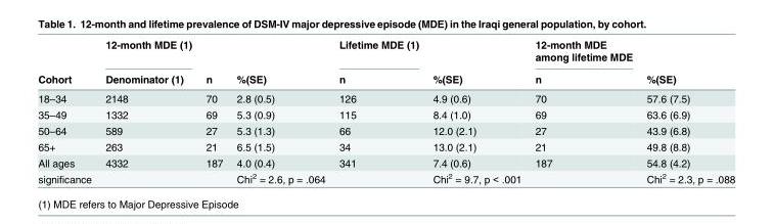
<table><thead><tr><td rowspan="2">Cohort</td><td rowspan="2">12-month MDE (1) Denominator (1)</td><td rowspan="2">n</td><td rowspan="2">%(SE)</td><td rowspan="2">Lifetime MDE (1) n</td><td rowspan="2">%(SE)</td><td rowspan="2">12-month MDE among lifetime MDE n</td><td rowspan="2">%(SE)</td></tr><tr></tr></thead><tbody><tr><td>18–34</td><td>2148</td><td>70</td><td>2.8 (0.5)</td><td>126</td><td>4.9 (0.6)</td><td>70</td><td>57.6 (7.5)</td></tr><tr><td>35–49</td><td>1332</td><td>69</td><td>5.3 (0.9)</td><td>115</td><td>8.4 (1.0)</td><td>69</td><td>63.6 (6.9)</td></tr><tr><td>50–64</td><td>589</td><td>27</td><td>5.3 (1.3)</td><td>66</td><td>12.0 (2.1)</td><td>27</td><td>43.9 (6.8)</td></tr><tr><td>65+</td><td>263</td><td>21</td><td>6.5 (1.5)</td><td>34</td><td>13.0 (2.1)</td><td>21</td><td>49.8 (8.8)</td></tr><tr><td>All ages</td><td>4332</td><td>187</td><td>4.0 (0.4)</td><td>341</td><td>7.4 (0.6)</td><td>187</td><td>54.8 (4.2)</td></tr><tr><td>significance</td><td></td><td></td><td>Chi<sup>2</sup> = 2.6, p = .064</td><td></td><td>Chi<sup>2</sup> = 9.7, p &lt; .001</td><td></td><td>Chi<sup>2</sup> = 2.3, p = .088</td></tr></tbody></table>